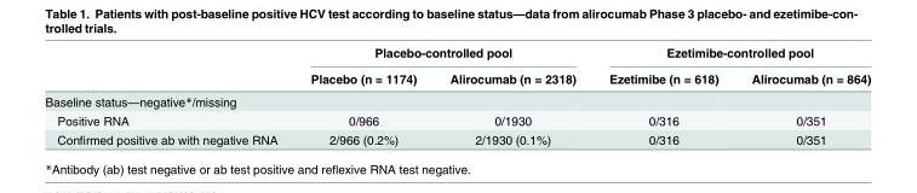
<table><thead><tr><td rowspan="2"></td><td colspan="2">Placebo-controlled pool</td><td colspan="2">Ezetimibe-controlled pool</td></tr><tr><td>Placebo (n = 1174)</td><td>Alirocumab (n = 2318)</td><td>Ezetimibe (n = 618)</td><td>Alirocumab (n = 864)</td></tr></thead><tbody><tr><td colspan="5">Baseline status—negative*/missing</td></tr><tr><td>Positive RNA</td><td>0/966</td><td>0/1930</td><td>0/316</td><td>0/351</td></tr><tr><td>Confirmed positive ab with negative RNA</td><td>2/966 (0.2%)</td><td>2/1930 (0.1%)</td><td>0/316</td><td>0/351</td></tr></tbody></table>